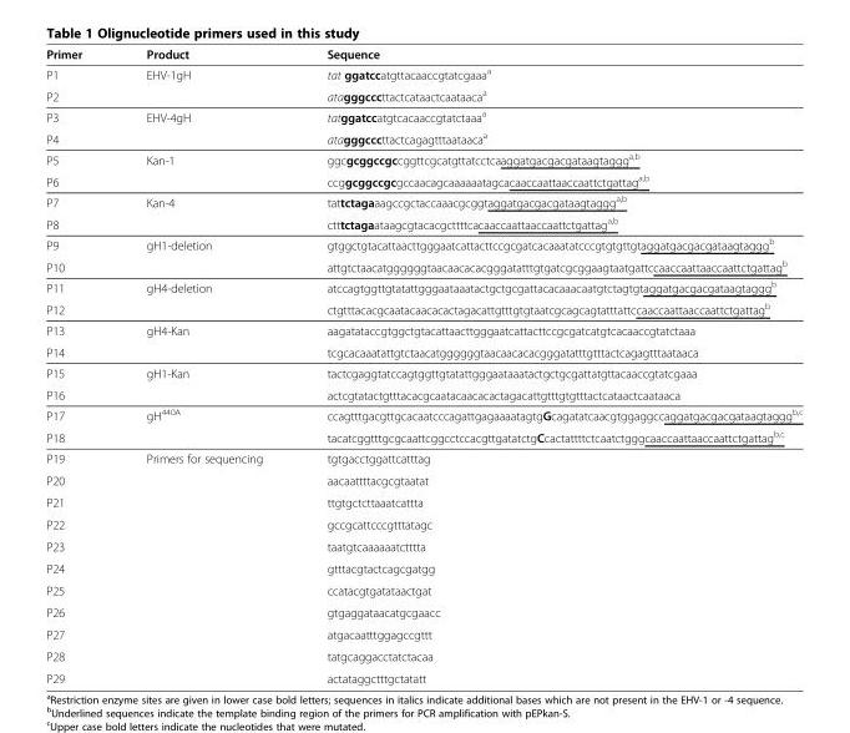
<table><thead><tr><td>Primer</td><td>Product</td><td>Sequence</td></tr></thead><tbody><tr><td>P1</td><td rowspan="2">EHV-1gH</td><td>tat ggatccatgttacaaccgtatcgaaa<sup>a</sup></td></tr><tr><td>P2</td><td>atagggcccttactcataactcaataaca<sup>a</sup></td></tr><tr><td>P3</td><td rowspan="2">EHV-4gH</td><td>tatggatccatgtcacaaccgtatctaaa<sup>a</sup></td></tr><tr><td>P4</td><td>atagggcccttactcagagtttaataaca<sup>a</sup></td></tr><tr><td>P5</td><td rowspan="2">Kan-1</td><td>ggcgcggccgccggttcgcatgttatcctcaaggatgacgacgataagtaggg<sup>a,b</sup></td></tr><tr><td>P6</td><td>ccggcggccgcgccaacagcaaaaaatagcacaaccaattaaccaattctgattag<sup>a,b</sup></td></tr><tr><td>P7</td><td rowspan="2">Kan-4</td><td>tattctagaaagccgctaccaaacgcggtaggatgacgacgataagtaggg<sup>a,b</sup></td></tr><tr><td>P8</td><td>ctttctagaataagcgtacacgcttttcacaaccaattaaccaattctgattag<sup>a,b</sup></td></tr><tr><td>P9</td><td rowspan="2">gH1-deletion</td><td>gtggctgtacattaacttgggaatcattacttccgcgatcacaaatatcccgtgtgttgtaggatgacgacgataagtaggg<sup>b</sup></td></tr><tr><td>P10</td><td>attgtctaacatggggggtaacaacacacgggatatttgtgatcgcggaagtaatgattccaaccaattaaccaattctgattag<sup>b</sup></td></tr><tr><td>P11</td><td rowspan="2">gH4-deletion</td><td>atccagtggttgtatattgggaataaatactgctgcgattacacaaacaatgtctagtgtaggatgacgacgataagtaggg<sup>b</sup></td></tr><tr><td>P12</td><td>ctgtttacacgcaatacaacacactagacattgtttgtgtaatcgcagcagtatttattccaaccaattaaccaattctgattag<sup>b</sup></td></tr><tr><td>P13</td><td rowspan="2">gH4-Kan</td><td>aagatataccgtggctgtacattaacttgggaatcattacttccgcgatcatgtcacaaccgtatctaaa</td></tr><tr><td>P14</td><td>tcgcacaaatattgtctaacatggggggtaacaacacacgggatatttgtttactcagagtttaataaca</td></tr><tr><td>P15</td><td rowspan="2">gH1-Kan</td><td>tactcgaggtatccagtggttgtatattgggaataaatactgctgcgattatgttacaaccgtatcgaaa</td></tr><tr><td>P16</td><td>actcgtatactgtttacacgcaatacaacacactagacattgtttgtgtttactcataactcaataaca</td></tr><tr><td>P17</td><td rowspan="2">gH<sup>440A</sup></td><td>ccagtttgacgttgcacaatcccagattgagaaaatagtgGcagatatcaacgtggaggccaggatgacgacgataagtaggg<sup>b,c</sup></td></tr><tr><td>P18</td><td>tacatcggtttgcgcaattcggcctccacgttgatatctgCcactattttctcaatctgggcaaccaattaaccaattctgattag<sup>b,c</sup></td></tr><tr><td>P19</td><td rowspan="11">Primers for sequencing</td><td>tgtgacctggattcatttag</td></tr><tr><td>P20</td><td>aacaattttacgcgtaatat</td></tr><tr><td>P21</td><td>ttgtgctcttaaatcattta</td></tr><tr><td>P22</td><td>gccgcattcccgtttatagc</td></tr><tr><td>P23</td><td>taatgtcaaaaaatctttta</td></tr><tr><td>P24</td><td>gtttacgtactcagcgatgg</td></tr><tr><td>P25</td><td>ccatacgtgatataactgat</td></tr><tr><td>P26</td><td>gtgaggataacatgcgaacc</td></tr><tr><td>P27</td><td>atgacaatttggagccgttt</td></tr><tr><td>P28</td><td>tatgcaggacctatctacaa</td></tr><tr><td>P29</td><td>actataggctttgctatatt</td></tr></tbody></table>